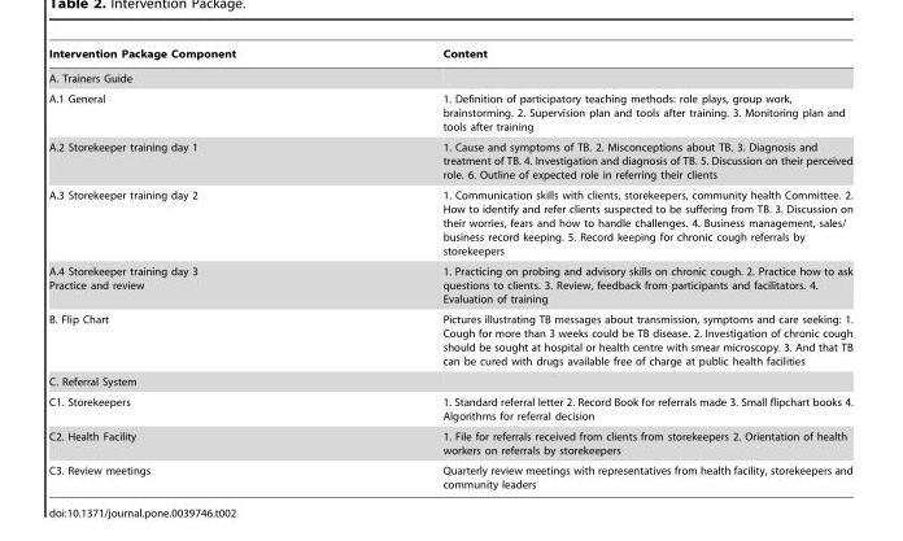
<table><thead><tr><td>Intervention Package Component</td><td>Content</td></tr></thead><tbody><tr><td colspan="2">A. Trainers Guide</td></tr><tr><td>A.1 General</td><td>1. Definition of participatory teaching methods: role plays, group work, brainstorming. 2. Supervision plan and tools after training. 3. Monitoring plan and tools after training</td></tr><tr><td>A.2 Storekeeper training day 1</td><td>1. Cause and symptoms of TB. 2. Misconceptions about TB. 3. Diagnosis and treatment of TB. 4. Investigation and diagnosis of TB. 5. Discussion on their perceived role. 6. Outline of expected role in referring their clients</td></tr><tr><td>A.3 Storekeeper training day 2</td><td>1. Communication skills with clients, storekeepers, community health Committee. 2. How to identify and refer clients suspected to be suffering from TB. 3. Discussion on their worries, fears and how to handle challenges. 4. Business management, sales/ business record keeping. 5. Record keeping for chronic cough referrals by storekeepers</td></tr><tr><td>A.4 Storekeeper training day 3 Practice and review</td><td>1. Practicing on probing and advisory skills on chronic cough. 2. Practice how to ask questions to clients. 3. Review, feedback from participants and facilitators. 4. Evaluation of training</td></tr><tr><td>B. Flip Chart</td><td>Pictures illustrating TB messages about transmission, symptoms and care seeking: 1. Cough for more than 3 weeks could be TB disease. 2. Investigation of chronic cough should be sought at hospital or health centre with smear microscopy. 3. And that TB can be cured with drugs available free of charge at public health facilities</td></tr><tr><td colspan="2">C. Referral System</td></tr><tr><td>C1. Storekeepers</td><td>1. Standard referral letter 2. Record Book for referrals made 3. Small flipchart books 4. Algorithms for referral decision</td></tr><tr><td>C2. Health Facility</td><td>1. File for referrals received from clients from storekeepers 2. Orientation of health workers on referrals by storekeepers</td></tr><tr><td>C3. Review meetings</td><td>Quarterly review meetings with representatives from health facility, storekeepers and community leaders</td></tr></tbody></table>